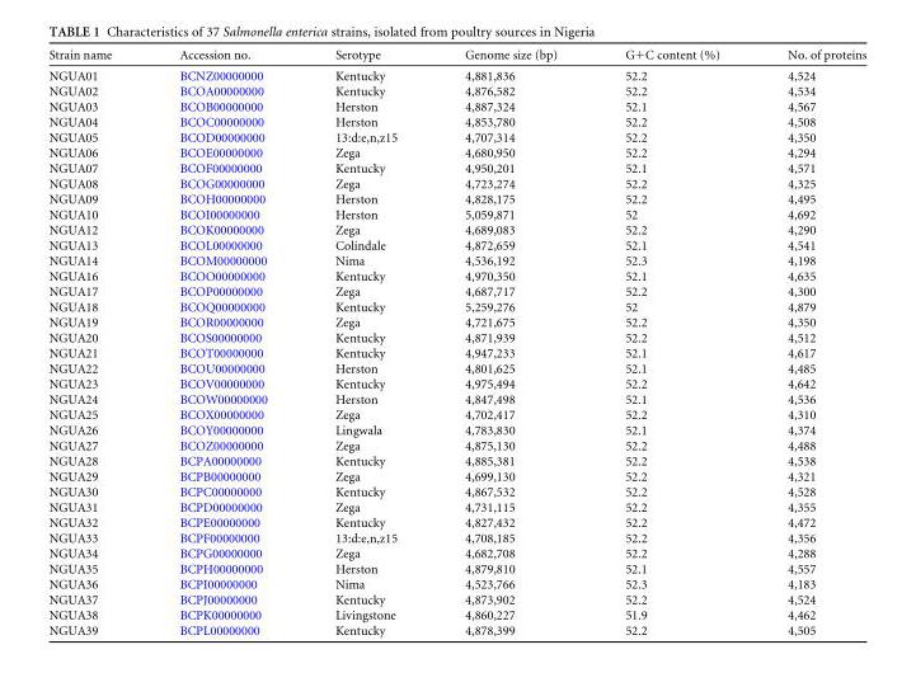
<table><thead><tr><td>Strain name</td><td>Accession no.</td><td>Serotype</td><td>Genome size (bp)</td><td>G+C content (%)</td><td>No. of proteins</td></tr></thead><tbody><tr><td>NGUA01</td><td>BCNZ00000000</td><td>Kentucky</td><td>4,881,836</td><td>52.2</td><td>4,524</td></tr><tr><td>NGUA02</td><td>BCOA00000000</td><td>Kentucky</td><td>4,876,582</td><td>52.2</td><td>4,534</td></tr><tr><td>NGUA03</td><td>BCOB00000000</td><td>Herston</td><td>4,887,324</td><td>52.1</td><td>4,567</td></tr><tr><td>NGUA04</td><td>BCOC00000000</td><td>Herston</td><td>4,853,780</td><td>52.2</td><td>4,508</td></tr><tr><td>NGUA05</td><td>BCOD00000000</td><td>13:d:e,n,z15</td><td>4,707,314</td><td>52.2</td><td>4,350</td></tr><tr><td>NGUA06</td><td>BCOE00000000</td><td>Zega</td><td>4,680,950</td><td>52.2</td><td>4,294</td></tr><tr><td>NGUA07</td><td>BCOF00000000</td><td>Kentucky</td><td>4,950,201</td><td>52.1</td><td>4,571</td></tr><tr><td>NGUA08</td><td>BCOG00000000</td><td>Zega</td><td>4,723,274</td><td>52.2</td><td>4,325</td></tr><tr><td>NGUA09</td><td>BCOH00000000</td><td>Herston</td><td>4,828,175</td><td>52.2</td><td>4,495</td></tr><tr><td>NGUA10</td><td>BCOI00000000</td><td>Herston</td><td>5,059,871</td><td>52</td><td>4,692</td></tr><tr><td>NGUA12</td><td>BCOK00000000</td><td>Zega</td><td>4,689,083</td><td>52.2</td><td>4,290</td></tr><tr><td>NGUA13</td><td>BCOL00000000</td><td>Colindale</td><td>4,872,659</td><td>52.1</td><td>4,541</td></tr><tr><td>NGUA14</td><td>BCOM00000000</td><td>Nima</td><td>4,536,192</td><td>52.3</td><td>4,198</td></tr><tr><td>NGUA16</td><td>BCOO00000000</td><td>Kentucky</td><td>4,970,350</td><td>52.1</td><td>4,635</td></tr><tr><td>NGUA17</td><td>BCOP00000000</td><td>Zega</td><td>4,687,717</td><td>52.2</td><td>4,300</td></tr><tr><td>NGUA18</td><td>BCOQ00000000</td><td>Kentucky</td><td>5,259,276</td><td>52</td><td>4,879</td></tr><tr><td>NGUA19</td><td>BCOR00000000</td><td>Zega</td><td>4,721,675</td><td>52.2</td><td>4,350</td></tr><tr><td>NGUA20</td><td>BCOS00000000</td><td>Kentucky</td><td>4,871,939</td><td>52.2</td><td>4,512</td></tr><tr><td>NGUA21</td><td>BCOT00000000</td><td>Kentucky</td><td>4,947,233</td><td>52.1</td><td>4,617</td></tr><tr><td>NGUA22</td><td>BCOU00000000</td><td>Herston</td><td>4,801,625</td><td>52.1</td><td>4,485</td></tr><tr><td>NGUA23</td><td>BCOV00000000</td><td>Kentucky</td><td>4,975,494</td><td>52.2</td><td>4,642</td></tr><tr><td>NGUA24</td><td>BCOW00000000</td><td>Herston</td><td>4,847,498</td><td>52.1</td><td>4,536</td></tr><tr><td>NGUA25</td><td>BCOX00000000</td><td>Zega</td><td>4,702,417</td><td>52.2</td><td>4,310</td></tr><tr><td>NGUA26</td><td>BCOY00000000</td><td>Lingwala</td><td>4,783,830</td><td>52.1</td><td>4,374</td></tr><tr><td>NGUA27</td><td>BCOZ00000000</td><td>Zega</td><td>4,875,130</td><td>52.2</td><td>4,488</td></tr><tr><td>NGUA28</td><td>BCPA00000000</td><td>Kentucky</td><td>4,885,381</td><td>52.2</td><td>4,538</td></tr><tr><td>NGUA29</td><td>BCPB00000000</td><td>Zega</td><td>4,699,130</td><td>52.2</td><td>4,321</td></tr><tr><td>NGUA30</td><td>BCPC00000000</td><td>Kentucky</td><td>4,867,532</td><td>52.2</td><td>4,528</td></tr><tr><td>NGUA31</td><td>BCPD00000000</td><td>Zega</td><td>4,731,115</td><td>52.2</td><td>4,355</td></tr><tr><td>NGUA32</td><td>BCPE00000000</td><td>Kentucky</td><td>4,827,432</td><td>52.2</td><td>4,472</td></tr><tr><td>NGUA33</td><td>BCPF00000000</td><td>13:d:e,n,z15</td><td>4,708,185</td><td>52.2</td><td>4,356</td></tr><tr><td>NGUA34</td><td>BCPG00000000</td><td>Zega</td><td>4,682,708</td><td>52.2</td><td>4,288</td></tr><tr><td>NGUA35</td><td>BCPH00000000</td><td>Herston</td><td>4,879,810</td><td>52.1</td><td>4,557</td></tr><tr><td>NGUA36</td><td>BCPI00000000</td><td>Nima</td><td>4,523,766</td><td>52.3</td><td>4,183</td></tr><tr><td>NGUA37</td><td>BCPJ00000000</td><td>Kentucky</td><td>4,873,902</td><td>52.2</td><td>4,524</td></tr><tr><td>NGUA38</td><td>BCPK00000000</td><td>Livingstone</td><td>4,860,227</td><td>51.9</td><td>4,462</td></tr><tr><td>NGUA39</td><td>BCPL00000000</td><td>Kentucky</td><td>4,878,399</td><td>52.2</td><td>4,505</td></tr></tbody></table>